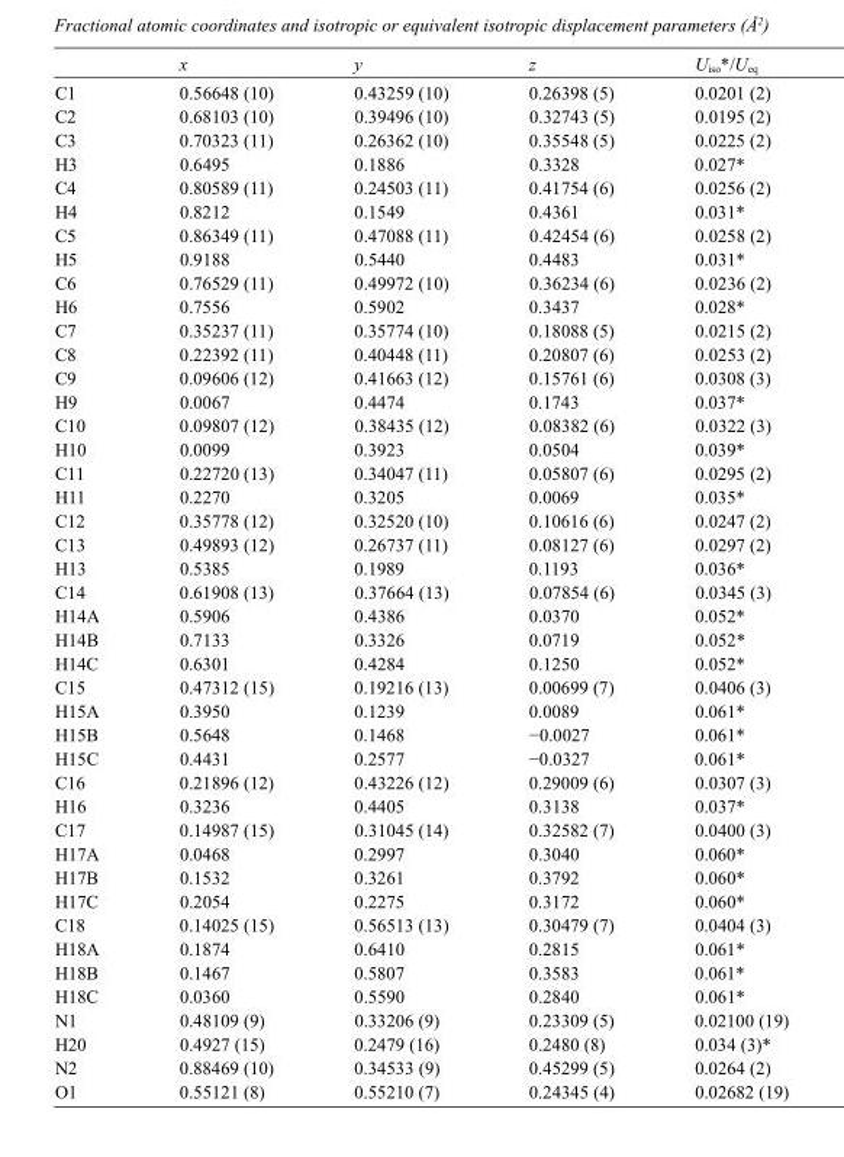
<table><thead><tr><td></td><td>x</td><td>y</td><td>z</td><td>U<sub>iso</sub>*/U<sub>eq</sub></td></tr></thead><tbody><tr><td>C1</td><td>0.56648 (10)</td><td>0.43259 (10)</td><td>0.26398 (5)</td><td>0.0201 (2)</td></tr><tr><td>C2</td><td>0.68103 (10)</td><td>0.39496 (10)</td><td>0.32743 (5)</td><td>0.0195 (2)</td></tr><tr><td>C3</td><td>0.70323 (11)</td><td>0.26362 (10)</td><td>0.35548 (5)</td><td>0.0225 (2)</td></tr><tr><td>H3</td><td>0.6495</td><td>0.1886</td><td>0.3328</td><td>0.027*</td></tr><tr><td>C4</td><td>0.80589 (11)</td><td>0.24503 (11)</td><td>0.41754 (6)</td><td>0.0256 (2)</td></tr><tr><td>H4</td><td>0.8212</td><td>0.1549</td><td>0.4361</td><td>0.031*</td></tr><tr><td>C5</td><td>0.86349 (11)</td><td>0.47088 (11)</td><td>0.42454 (6)</td><td>0.0258 (2)</td></tr><tr><td>H5</td><td>0.9188</td><td>0.5440</td><td>0.4483</td><td>0.031*</td></tr><tr><td>C6</td><td>0.76529 (11)</td><td>0.49972 (10)</td><td>0.36234 (6)</td><td>0.0236 (2)</td></tr><tr><td>H6</td><td>0.7556</td><td>0.5902</td><td>0.3437</td><td>0.028*</td></tr><tr><td>C7</td><td>0.35237 (11)</td><td>0.35774 (10)</td><td>0.18088 (5)</td><td>0.0215 (2)</td></tr><tr><td>C8</td><td>0.22392 (11)</td><td>0.40448 (11)</td><td>0.20807 (6)</td><td>0.0253 (2)</td></tr><tr><td>C9</td><td>0.09606 (12)</td><td>0.41663 (12)</td><td>0.15761 (6)</td><td>0.0308 (3)</td></tr><tr><td>H9</td><td>0.0067</td><td>0.4474</td><td>0.1743</td><td>0.037*</td></tr><tr><td>C10</td><td>0.09807 (12)</td><td>0.38435 (12)</td><td>0.08382 (6)</td><td>0.0322 (3)</td></tr><tr><td>H10</td><td>0.0099</td><td>0.3923</td><td>0.0504</td><td>0.039*</td></tr><tr><td>C11</td><td>0.22720 (13)</td><td>0.34047 (11)</td><td>0.05807 (6)</td><td>0.0295 (2)</td></tr><tr><td>H11</td><td>0.2270</td><td>0.3205</td><td>0.0069</td><td>0.035*</td></tr><tr><td>C12</td><td>0.35778 (12)</td><td>0.32520 (10)</td><td>0.10616 (6)</td><td>0.0247 (2)</td></tr><tr><td>C13</td><td>0.49893 (12)</td><td>0.26737 (11)</td><td>0.08127 (6)</td><td>0.0297 (2)</td></tr><tr><td>H13</td><td>0.5385</td><td>0.1989</td><td>0.1193</td><td>0.036*</td></tr><tr><td>C14</td><td>0.61908 (13)</td><td>0.37664 (13)</td><td>0.07854 (6)</td><td>0.0345 (3)</td></tr><tr><td>H14A</td><td>0.5906</td><td>0.4386</td><td>0.0370</td><td>0.052*</td></tr><tr><td>H14B</td><td>0.7133</td><td>0.3326</td><td>0.0719</td><td>0.052*</td></tr><tr><td>H14C</td><td>0.6301</td><td>0.4284</td><td>0.1250</td><td>0.052*</td></tr><tr><td>C15</td><td>0.47312 (15)</td><td>0.19216 (13)</td><td>0.00699 (7)</td><td>0.0406 (3)</td></tr><tr><td>H15A</td><td>0.3950</td><td>0.1239</td><td>0.0089</td><td>0.061*</td></tr><tr><td>H15B</td><td>0.5648</td><td>0.1468</td><td>−0.0027</td><td>0.061*</td></tr><tr><td>H15C</td><td>0.4431</td><td>0.2577</td><td>−0.0327</td><td>0.061*</td></tr><tr><td>C16</td><td>0.21896 (12)</td><td>0.43226 (12)</td><td>0.29009 (6)</td><td>0.0307 (3)</td></tr><tr><td>H16</td><td>0.3236</td><td>0.4405</td><td>0.3138</td><td>0.037*</td></tr><tr><td>C17</td><td>0.14987 (15)</td><td>0.31045 (14)</td><td>0.32582 (7)</td><td>0.0400 (3)</td></tr><tr><td>H17A</td><td>0.0468</td><td>0.2997</td><td>0.3040</td><td>0.060*</td></tr><tr><td>H17B</td><td>0.1532</td><td>0.3261</td><td>0.3792</td><td>0.060*</td></tr><tr><td>H17C</td><td>0.2054</td><td>0.2275</td><td>0.3172</td><td>0.060*</td></tr><tr><td>C18</td><td>0.14025 (15)</td><td>0.56513 (13)</td><td>0.30479 (7)</td><td>0.0404 (3)</td></tr><tr><td>H18A</td><td>0.1874</td><td>0.6410</td><td>0.2815</td><td>0.061*</td></tr><tr><td>H18B</td><td>0.1467</td><td>0.5807</td><td>0.3583</td><td>0.061*</td></tr><tr><td>H18C</td><td>0.0360</td><td>0.5590</td><td>0.2840</td><td>0.061*</td></tr><tr><td>N1</td><td>0.48109 (9)</td><td>0.33206 (9)</td><td>0.23309 (5)</td><td>0.02100 (19)</td></tr><tr><td>H20</td><td>0.4927 (15)</td><td>0.2479 (16)</td><td>0.2480 (8)</td><td>0.034 (3)*</td></tr><tr><td>N2</td><td>0.88469 (10)</td><td>0.34533 (9)</td><td>0.45299 (5)</td><td>0.0264 (2)</td></tr><tr><td>O1</td><td>0.55121 (8)</td><td>0.55210 (7)</td><td>0.24345 (4)</td><td>0.02682 (19)</td></tr></tbody></table>